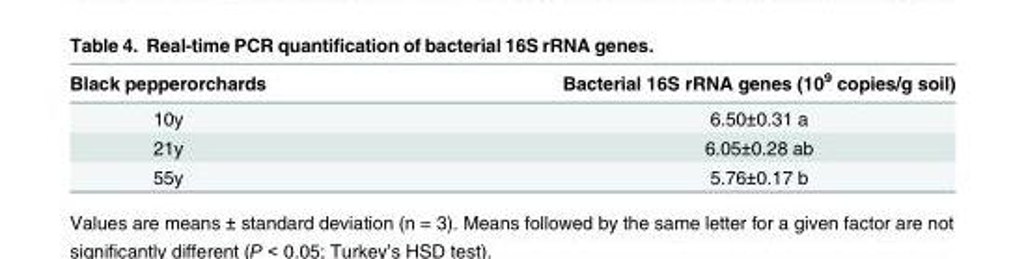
<table><thead><tr><td>Black pepperorchards</td><td>Bacterial 16S rRNA genes (10<sup>9</sup> copies/g soil)</td></tr></thead><tbody><tr><td>10y</td><td>6.50±0.31 a</td></tr><tr><td>21y</td><td>6.05±0.28 ab</td></tr><tr><td>55y</td><td>5.76±0.17 b</td></tr></tbody></table>